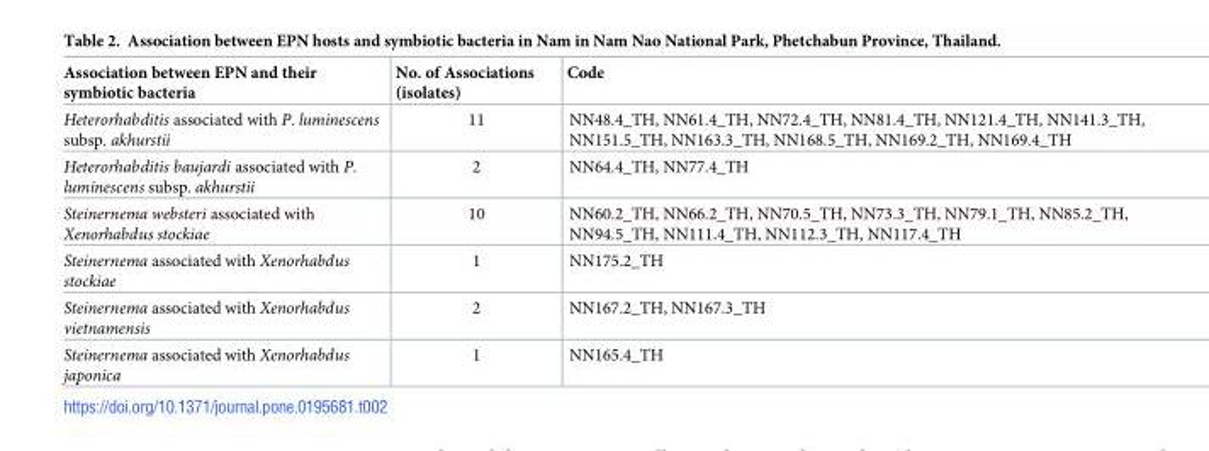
<table><thead><tr><td>Association between EPN and their symbiotic bacteria</td><td>No. of Associations (isolates)</td><td>Code</td></tr></thead><tbody><tr><td>Heterorhabditis associated with P. luminescens subsp. akhurstii</td><td>11</td><td>NN48.4_TH, NN61.4_TH, NN72.4_TH, NN81.4_TH, NN121.4_TH, NN141.3_TH, NN151.5_TH, NN163.3_TH, NN168.5_TH, NN169.2_TH, NN169.4_TH</td></tr><tr><td>Heterorhabditis baujardi associated with P. luminescens subsp. akhurstii</td><td>2</td><td>NN64.4_TH, NN77.4_TH</td></tr><tr><td>Steinernema websteri associated with Xenorhabdus stockiae</td><td>10</td><td>NN60.2_TH, NN66.2_TH, NN70.5_TH, NN73.3_TH, NN79.1_TH, NN85.2_TH, NN94.5_TH, NN111.4_TH, NN112.3_TH, NN117.4_TH</td></tr><tr><td>Steinernema associated with Xenorhabdus stockiae</td><td>1</td><td>NN175.2_TH</td></tr><tr><td>Steinernema associated with Xenorhabdus vietnamensis</td><td>2</td><td>NN167.2_TH, NN167.3_TH</td></tr><tr><td>Steinernema associated with Xenorhabdus japonica</td><td>1</td><td>NN165.4_TH</td></tr></tbody></table>